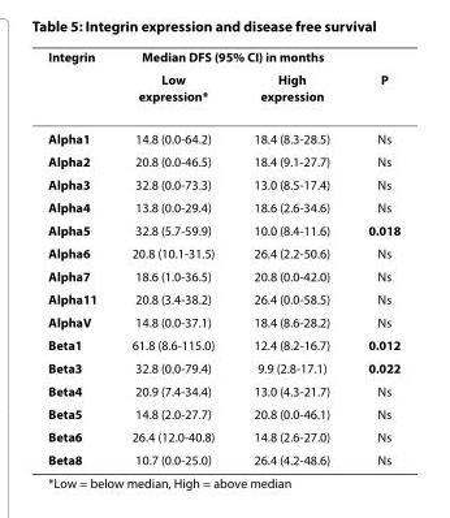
<table><thead><tr><td rowspan="2">Integrin</td><td colspan="2">Median DFS (95% CI) in months</td><td rowspan="2">P</td></tr><tr><td>Low expression*</td><td>High expression</td></tr></thead><tbody><tr><td>Alpha1</td><td>14.8 (0.0-64.2)</td><td>18.4 (8.3-28.5)</td><td>Ns</td></tr><tr><td>Alpha2</td><td>20.8 (0.0-46.5)</td><td>18.4 (9.1-27.7)</td><td>Ns</td></tr><tr><td>Alpha3</td><td>32.8 (0.0-73.3)</td><td>13.0 (8.5-17.4)</td><td>Ns</td></tr><tr><td>Alpha4</td><td>13.8 (0.0-29.4)</td><td>18.6 (2.6-34.6)</td><td>Ns</td></tr><tr><td>Alpha5</td><td>32.8 (5.7-59.9)</td><td>10.0 (8.4-11.6)</td><td>0.018</td></tr><tr><td>Alpha6</td><td>20.8 (10.1-31.5)</td><td>26.4 (2.2-50.6)</td><td>Ns</td></tr><tr><td>Alpha7</td><td>18.6 (1.0-36.5)</td><td>20.8 (0.0-42.0)</td><td>Ns</td></tr><tr><td>Alpha11</td><td>20.8 (3.4-38.2)</td><td>26.4 (0.0-58.5)</td><td>Ns</td></tr><tr><td>AlphaV</td><td>14.8 (0.0-37.1)</td><td>18.4 (8.6-28.2)</td><td>Ns</td></tr><tr><td>Beta1</td><td>61.8 (8.6-115.0)</td><td>12.4 (8.2-16.7)</td><td>0.012</td></tr><tr><td>Beta3</td><td>32.8 (0.0-79.4)</td><td>9.9 (2.8-17.1)</td><td>0.022</td></tr><tr><td>Beta4</td><td>20.9 (7.4-34.4)</td><td>13.0 (4.3-21.7)</td><td>Ns</td></tr><tr><td>Beta5</td><td>14.8 (2.0-27.7)</td><td>20.8 (0.0-46.1)</td><td>Ns</td></tr><tr><td>Beta6</td><td>26.4 (12.0-40.8)</td><td>14.8 (2.6-27.0)</td><td>Ns</td></tr><tr><td>Beta8</td><td>10.7 (0.0-25.0)</td><td>26.4 (4.2-48.6)</td><td>Ns</td></tr></tbody></table>